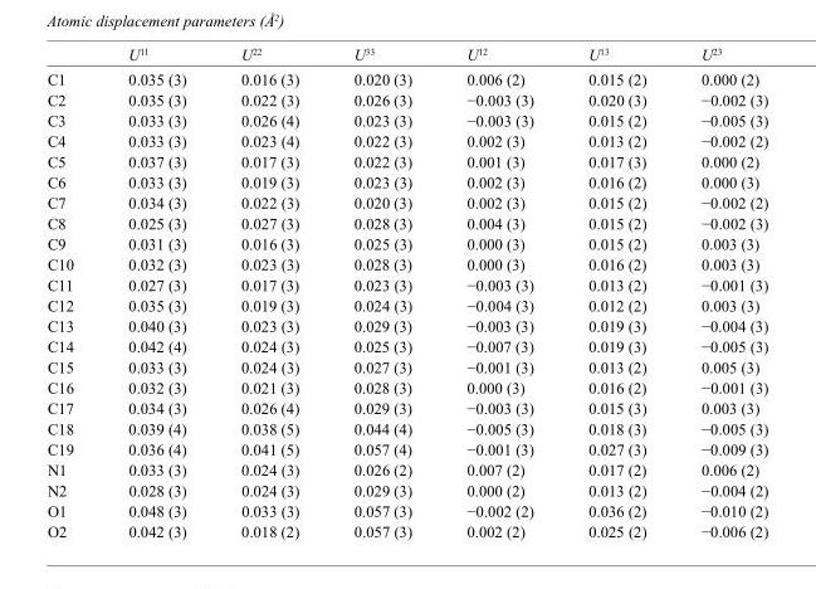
<table><thead><tr><td></td><td>U<sup>11</sup></td><td>U<sup>22</sup></td><td>U<sup>33</sup></td><td>U<sup>12</sup></td><td>U<sup>13</sup></td><td>U<sup>23</sup></td></tr></thead><tbody><tr><td>C1</td><td>0.035 (3)</td><td>0.016 (3)</td><td>0.020 (3)</td><td>0.006 (2)</td><td>0.015 (2)</td><td>0.000 (2)</td></tr><tr><td>C2</td><td>0.035 (3)</td><td>0.022 (3)</td><td>0.026 (3)</td><td>−0.003 (3)</td><td>0.020 (3)</td><td>−0.002 (3)</td></tr><tr><td>C3</td><td>0.033 (3)</td><td>0.026 (4)</td><td>0.023 (3)</td><td>−0.003 (3)</td><td>0.015 (2)</td><td>−0.005 (3)</td></tr><tr><td>C4</td><td>0.033 (3)</td><td>0.023 (4)</td><td>0.022 (3)</td><td>0.002 (3)</td><td>0.013 (2)</td><td>−0.002 (2)</td></tr><tr><td>C5</td><td>0.037 (3)</td><td>0.017 (3)</td><td>0.022 (3)</td><td>0.001 (3)</td><td>0.017 (3)</td><td>0.000 (2)</td></tr><tr><td>C6</td><td>0.033 (3)</td><td>0.019 (3)</td><td>0.023 (3)</td><td>0.002 (3)</td><td>0.016 (2)</td><td>0.000 (3)</td></tr><tr><td>C7</td><td>0.034 (3)</td><td>0.022 (3)</td><td>0.020 (3)</td><td>0.002 (3)</td><td>0.015 (2)</td><td>−0.002 (2)</td></tr><tr><td>C8</td><td>0.025 (3)</td><td>0.027 (3)</td><td>0.028 (3)</td><td>0.004 (3)</td><td>0.015 (2)</td><td>−0.002 (3)</td></tr><tr><td>C9</td><td>0.031 (3)</td><td>0.016 (3)</td><td>0.025 (3)</td><td>0.000 (3)</td><td>0.015 (2)</td><td>0.003 (3)</td></tr><tr><td>C10</td><td>0.032 (3)</td><td>0.023 (3)</td><td>0.028 (3)</td><td>0.000 (3)</td><td>0.016 (2)</td><td>0.003 (3)</td></tr><tr><td>C11</td><td>0.027 (3)</td><td>0.017 (3)</td><td>0.023 (3)</td><td>−0.003 (3)</td><td>0.013 (2)</td><td>−0.001 (3)</td></tr><tr><td>C12</td><td>0.035 (3)</td><td>0.019 (3)</td><td>0.024 (3)</td><td>−0.004 (3)</td><td>0.012 (2)</td><td>0.003 (3)</td></tr><tr><td>C13</td><td>0.040 (3)</td><td>0.023 (3)</td><td>0.029 (3)</td><td>−0.003 (3)</td><td>0.019 (3)</td><td>−0.004 (3)</td></tr><tr><td>C14</td><td>0.042 (4)</td><td>0.024 (3)</td><td>0.025 (3)</td><td>−0.007 (3)</td><td>0.019 (3)</td><td>−0.005 (3)</td></tr><tr><td>C15</td><td>0.033 (3)</td><td>0.024 (3)</td><td>0.027 (3)</td><td>−0.001 (3)</td><td>0.013 (2)</td><td>0.005 (3)</td></tr><tr><td>C16</td><td>0.032 (3)</td><td>0.021 (3)</td><td>0.028 (3)</td><td>0.000 (3)</td><td>0.016 (2)</td><td>−0.001 (3)</td></tr><tr><td>C17</td><td>0.034 (3)</td><td>0.026 (4)</td><td>0.029 (3)</td><td>−0.003 (3)</td><td>0.015 (3)</td><td>0.003 (3)</td></tr><tr><td>C18</td><td>0.039 (4)</td><td>0.038 (5)</td><td>0.044 (4)</td><td>−0.005 (3)</td><td>0.018 (3)</td><td>−0.005 (3)</td></tr><tr><td>C19</td><td>0.036 (4)</td><td>0.041 (5)</td><td>0.057 (4)</td><td>−0.001 (3)</td><td>0.027 (3)</td><td>−0.009 (3)</td></tr><tr><td>N1</td><td>0.033 (3)</td><td>0.024 (3)</td><td>0.026 (2)</td><td>0.007 (2)</td><td>0.017 (2)</td><td>0.006 (2)</td></tr><tr><td>N2</td><td>0.028 (3)</td><td>0.024 (3)</td><td>0.029 (3)</td><td>0.000 (2)</td><td>0.013 (2)</td><td>−0.004 (2)</td></tr><tr><td>O1</td><td>0.048 (3)</td><td>0.033 (3)</td><td>0.057 (3)</td><td>−0.002 (2)</td><td>0.036 (2)</td><td>−0.010 (2)</td></tr><tr><td>O2</td><td>0.042 (3)</td><td>0.018 (2)</td><td>0.057 (3)</td><td>0.002 (2)</td><td>0.025 (2)</td><td>−0.006 (2)</td></tr></tbody></table>